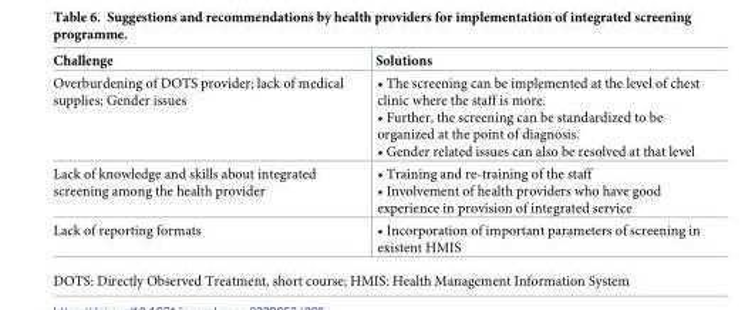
<table><thead><tr><td>Challenge</td><td>Solutions</td></tr></thead><tbody><tr><td>Overburdening of DOTS provider; lack of medical supplies; Gender issues</td><td>• The screening can be implemented at the level of chest clinic where the staff is more. • Further, the screening can be standardized to be organized at the point of diagnosis. • Gender related issues can also be resolved at that level</td></tr><tr><td>Lack of knowledge and skills about integrated screening among the health provider</td><td>• Training and re-training of the staff • Involvement of health providers who have good experience in provision of integrated service</td></tr><tr><td>Lack of reporting formats</td><td>• Incorporation of important parameters of screening in existent HMIS</td></tr></tbody></table>